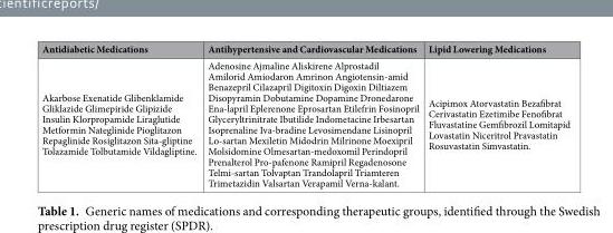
<table><thead><tr><td>Antidiabetic Medications</td><td>Antihypertensive and Cardiovascular Medications</td><td>Lipid Lowering Medications</td></tr></thead><tbody><tr><td>Akarbose Exenatide Glibenklamide Gliklazide Glimepiride Glipizide Insulin Klorpropamide Liraglutide Metformin Nateglinide Pioglitazon Repaglinide Rosiglitazon Sita-gliptine Tolazamide Tolbutamide Vildagliptine.</td><td>Adenosine Ajmaline Aliskirene Alprostadil Amilorid Amiodaron Amrinon Angiotensin-amid Benazepril Cilazapril Digitoxin Digoxin Diltiazem Disopyramin Dobutamine Dopamine Dronedarone Ena-lapril Eplerenone Eprosartan Etilefrin Fosinopril Glyceryltrinitrate Ibutilide Indometacine Irbesartan Isoprenaline Iva-bradine Levosimendane Lisinopril Lo-sartan Mexiletin Midodrin Milrinone Moexipril Molsidomine Olmesartan-medoxomil Perindopril Prenalterol Pro-pafenone Ramipril Regadenosone Telmi-sartan Tolvaptan Trandolapril Triamteren Trimetazidin Valsartan Verapamil Verna-kalant.</td><td>Acipimox Atorvastatin Bezafibrat Cerivastatin Ezetimibe Fenofibrat Fluvastatine Gemfibrozil Lomitapid Lovastatin Niceritrol Pravastatin Rosuvastatin Simvastatin.</td></tr></tbody></table>